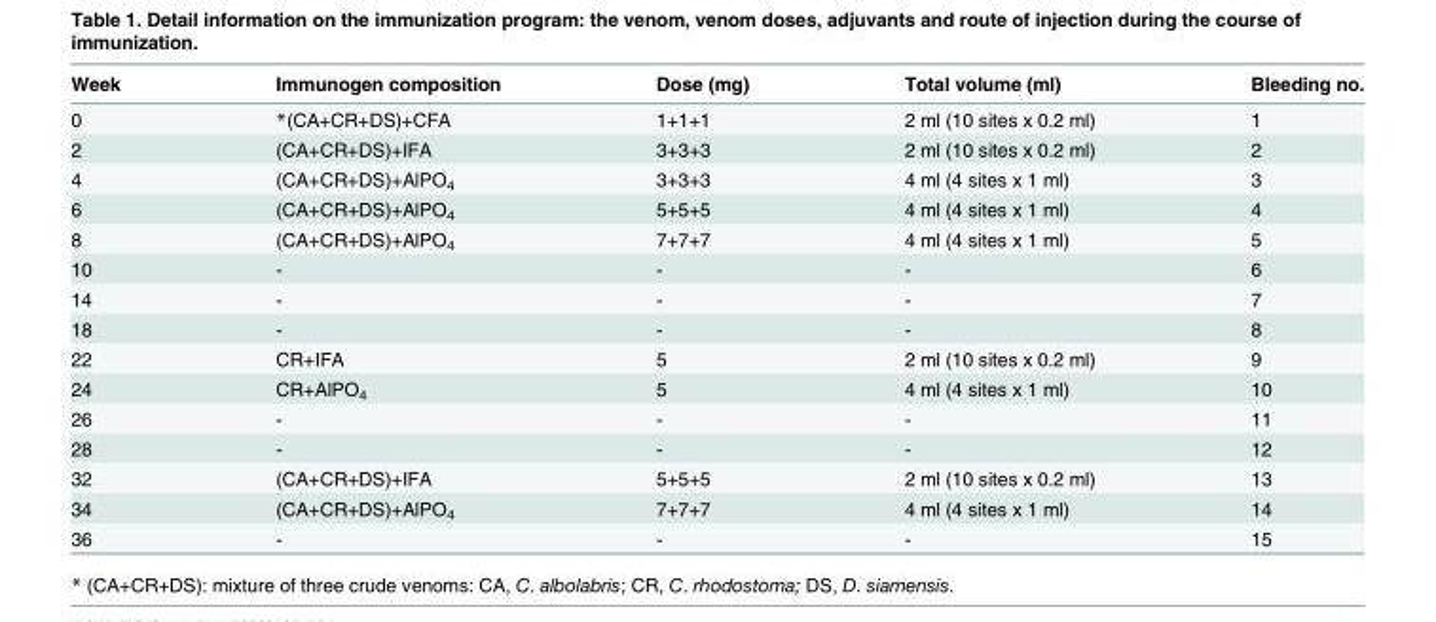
<table><thead><tr><td>Week</td><td>Immunogen composition</td><td>Dose (mg)</td><td>Total volume (ml)</td><td>Bleeding no.</td></tr></thead><tbody><tr><td>0</td><td>*(CA+CR+DS)+CFA</td><td>1+1+1</td><td>2 ml (10 sites x 0.2 ml)</td><td>1</td></tr><tr><td>2</td><td>(CA+CR+DS)+IFA</td><td>3+3+3</td><td>2 ml (10 sites x 0.2 ml)</td><td>2</td></tr><tr><td>4</td><td>(CA+CR+DS)+AlPO<sub>4</sub></td><td>3+3+3</td><td>4 ml (4 sites x 1 ml)</td><td>3</td></tr><tr><td>6</td><td>(CA+CR+DS)+AlPO<sub>4</sub></td><td>5+5+5</td><td>4 ml (4 sites x 1 ml)</td><td>4</td></tr><tr><td>8</td><td>(CA+CR+DS)+AlPO<sub>4</sub></td><td>7+7+7</td><td>4 ml (4 sites x 1 ml)</td><td>5</td></tr><tr><td>10</td><td>-</td><td>-</td><td>-</td><td>6</td></tr><tr><td>14</td><td>-</td><td>-</td><td>-</td><td>7</td></tr><tr><td>18</td><td>-</td><td>-</td><td>-</td><td>8</td></tr><tr><td>22</td><td>CR+IFA</td><td>5</td><td>2 ml (10 sites x 0.2 ml)</td><td>9</td></tr><tr><td>24</td><td>CR+AlPO<sub>4</sub></td><td>5</td><td>4 ml (4 sites x 1 ml)</td><td>10</td></tr><tr><td>26</td><td>-</td><td>-</td><td>-</td><td>11</td></tr><tr><td>28</td><td>-</td><td>-</td><td>-</td><td>12</td></tr><tr><td>32</td><td>(CA+CR+DS)+IFA</td><td>5+5+5</td><td>2 ml (10 sites x 0.2 ml)</td><td>13</td></tr><tr><td>34</td><td>(CA+CR+DS)+AlPO<sub>4</sub></td><td>7+7+7</td><td>4 ml (4 sites x 1 ml)</td><td>14</td></tr><tr><td>36</td><td>-</td><td>-</td><td>-</td><td>15</td></tr></tbody></table>